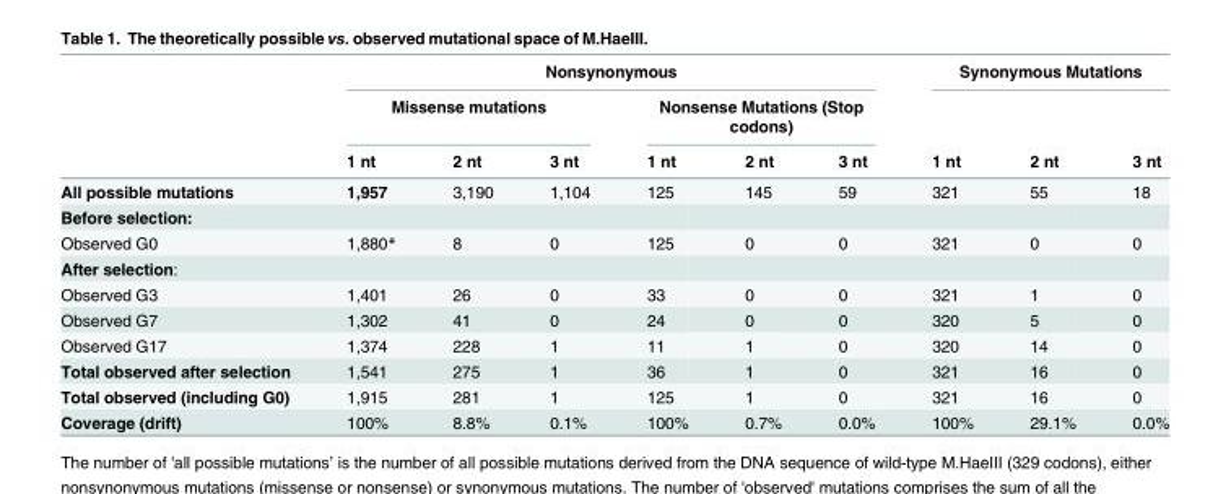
<table><thead><tr><td rowspan="3"></td><td colspan="6">Nonsynonymous</td><td colspan="3">Synonymous Mutations</td></tr><tr><td colspan="3">Missense mutations</td><td colspan="3">Nonsense Mutations (Stop codons)</td><td rowspan="2">1 nt</td><td rowspan="2">2 nt</td><td rowspan="2">3 nt</td></tr><tr><td>1 nt</td><td>2 nt</td><td>3 nt</td><td>1 nt</td><td>2 nt</td><td>3 nt</td></tr></thead><tbody><tr><td>All possible mutations</td><td>1,957</td><td>3,190</td><td>1,104</td><td>125</td><td>145</td><td>59</td><td>321</td><td>55</td><td>18</td></tr><tr><td colspan="10">Before selection:</td></tr><tr><td>Observed G0</td><td>1,880*</td><td>8</td><td>0</td><td>125</td><td>0</td><td>0</td><td>321</td><td>0</td><td>0</td></tr><tr><td colspan="10">After selection:</td></tr><tr><td>Observed G3</td><td>1,401</td><td>26</td><td>0</td><td>33</td><td>0</td><td>0</td><td>321</td><td>1</td><td>0</td></tr><tr><td>Observed G7</td><td>1,302</td><td>41</td><td>0</td><td>24</td><td>0</td><td>0</td><td>320</td><td>5</td><td>0</td></tr><tr><td>Observed G17</td><td>1,374</td><td>228</td><td>1</td><td>11</td><td>1</td><td>0</td><td>320</td><td>14</td><td>0</td></tr><tr><td>Total observed after selection</td><td>1,541</td><td>275</td><td>1</td><td>36</td><td>1</td><td>0</td><td>321</td><td>16</td><td>0</td></tr><tr><td>Total observed (including G0)</td><td>1,915</td><td>281</td><td>1</td><td>125</td><td>1</td><td>0</td><td>321</td><td>16</td><td>0</td></tr><tr><td>Coverage (drift)</td><td>100%</td><td>8.8%</td><td>0.1%</td><td>100%</td><td>0.7%</td><td>0.0%</td><td>100%</td><td>29.1%</td><td>0.0%</td></tr></tbody></table>